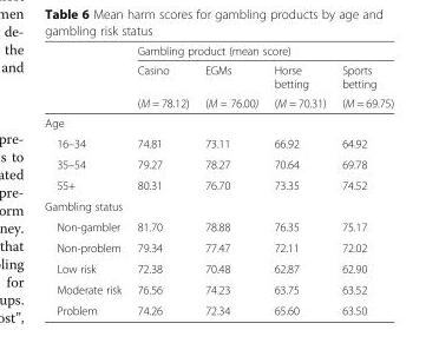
<table><thead><tr><td rowspan="3"></td><td colspan="4">Gambling product (mean score)</td></tr><tr><td rowspan="2">Casino (M = 78.12)</td><td rowspan="2">EGMs (M = 76.00)</td><td rowspan="2">Horse betting (M = 70.31)</td><td rowspan="2">Sports betting (M = 69.75)</td></tr><tr></tr></thead><tbody><tr><td colspan="5">Age</td></tr><tr><td>16–34</td><td>74.81</td><td>73.11</td><td>66.92</td><td>64.92</td></tr><tr><td>35–54</td><td>79.27</td><td>78.27</td><td>70.64</td><td>69.78</td></tr><tr><td>55+</td><td>80.31</td><td>76.70</td><td>73.35</td><td>74.52</td></tr><tr><td colspan="5">Gambling status</td></tr><tr><td>Non-gambler</td><td>81.70</td><td>78.88</td><td>76.35</td><td>75.17</td></tr><tr><td>Non-problem</td><td>79.34</td><td>77.47</td><td>72.11</td><td>72.02</td></tr><tr><td>Low risk</td><td>72.38</td><td>70.48</td><td>62.87</td><td>62.90</td></tr><tr><td>Moderate risk</td><td>76.56</td><td>74.23</td><td>63.75</td><td>63.52</td></tr><tr><td>Problem</td><td>74.26</td><td>72.34</td><td>65.60</td><td>63.50</td></tr></tbody></table>